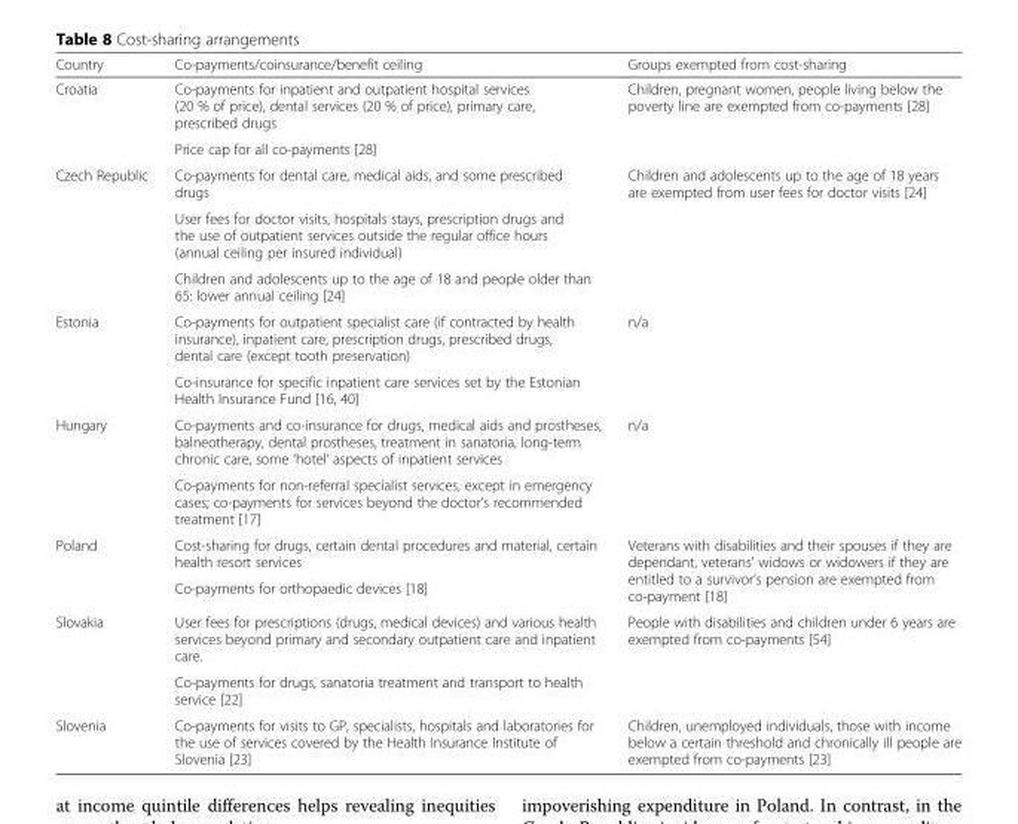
<table><thead><tr><td>Country</td><td>Co-payments/coinsurance/benefit ceiling</td><td>Groups exempted from cost-sharing</td></tr></thead><tbody><tr><td rowspan="2">Croatia</td><td>Co-payments for inpatient and outpatient hospital services (20 % of price), dental services (20 % of price), primary care, prescribed drugs</td><td rowspan="2">Children, pregnant women, people living below the poverty line are exempted from co-payments [28]</td></tr><tr><td>Price cap for all co-payments [28]</td></tr><tr><td rowspan="3">Czech Republic</td><td>Co-payments for dental care, medical aids, and some prescribed drugs</td><td rowspan="3">Children and adolescents up to the age of 18 years are exempted from user fees for doctor visits [24]</td></tr><tr><td>User fees for doctor visits, hospitals stays, prescription drugs and the use of outpatient services outside the regular office hours (annual ceiling per insured individual)</td></tr><tr><td>Children and adolescents up to the age of 18 and people older than 65: lower annual ceiling [24]</td></tr><tr><td rowspan="2">Estonia</td><td>Co-payments for outpatient specialist care (if contracted by health insurance), inpatient care, prescription drugs, prescribed drugs, dental care (except tooth preservation)</td><td rowspan="2">n/a</td></tr><tr><td>Co-insurance for specific inpatient care services set by the Estonian Health Insurance Fund [16, 40]</td></tr><tr><td rowspan="2">Hungary</td><td>Co-payments and co-insurance for drugs, medical aids and prostheses, balneotherapy, dental prostheses, treatment in sanatoria, long-term chronic care, some ‘hotel’ aspects of inpatient services</td><td rowspan="2">n/a</td></tr><tr><td>Co-payments for non-referral specialist services, except in emergency cases; co-payments for services beyond the doctor’s recommended treatment [17]</td></tr><tr><td rowspan="2">Poland</td><td>Cost-sharing for drugs, certain dental procedures and material, certain health resort services</td><td rowspan="2">Veterans with disabilities and their spouses if they are dependant, veterans’ widows or widowers if they are entitled to a survivor’s pension are exempted from co-payment [18]</td></tr><tr><td>Co-payments for orthopaedic devices [18]</td></tr><tr><td rowspan="2">Slovakia</td><td>User fees for prescriptions (drugs, medical devices) and various health services beyond primary and secondary outpatient care and inpatient care.</td><td rowspan="2">People with disabilities and children under 6 years are exempted from co-payments [54]</td></tr><tr><td>Co-payments for drugs, sanatoria treatment and transport to health service [22]</td></tr><tr><td>Slovenia</td><td>Co-payments for visits to GP, specialists, hospitals and laboratories for the use of services covered by the Health Insurance Institute of Slovenia [23]</td><td>Children, unemployed individuals, those with income below a certain threshold and chronically ill people are exempted from co-payments [23]</td></tr></tbody></table>